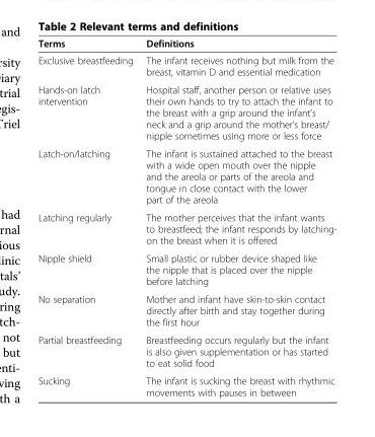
<table><thead><tr><td>Terms</td><td>Definitions</td></tr></thead><tbody><tr><td>Exclusive breastfeeding</td><td>The infant receives nothing but milk from the breast, vitamin D and essential medication</td></tr><tr><td>Hands-on latch intervention</td><td>Hospital staff, another person or relative uses their own hands to try to attach the infant to the breast with a grip around the infant’s neck and a grip around the mother’s breast/ nipple sometimes using more or less force</td></tr><tr><td>Latch-on/latching</td><td>The infant is sustained attached to the breast with a wide open mouth over the nipple and the areola or parts of the areola and tongue in close contact with the lower part of the areola</td></tr><tr><td>Latching regularly</td><td>The mother perceives that the infant wants to breastfeed; the infant responds by latching- on the breast when it is offered</td></tr><tr><td>Nipple shield</td><td>Small plastic or rubber device shaped like the nipple that is placed over the nipple before latching</td></tr><tr><td>No separation</td><td>Mother and infant have skin-to-skin contact directly after birth and stay together during the first hour</td></tr><tr><td>Partial breastfeeding</td><td>Breastfeeding occurs regularly but the infant is also given supplementation or has started to eat solid food</td></tr><tr><td>Sucking</td><td>The infant is sucking the breast with rhythmic movements with pauses in between</td></tr></tbody></table>